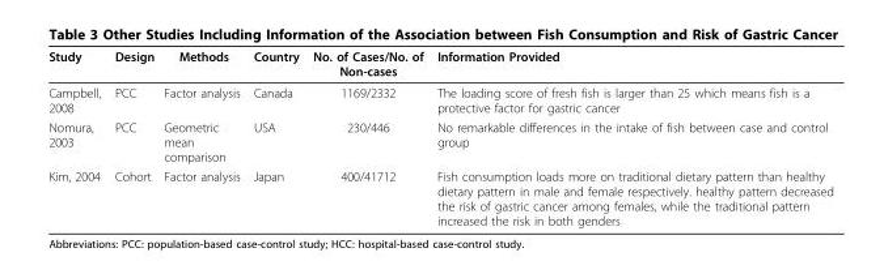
<table><thead><tr><td>Study</td><td>Design</td><td>Methods</td><td>Country</td><td>No. of Cases/No. of Non-cases</td><td>Information Provided</td></tr></thead><tbody><tr><td>Campbell, 2008</td><td>PCC</td><td>Factor analysis</td><td>Canada</td><td>1169/2332</td><td>The loading score of fresh fish is larger than 25 which means fish is a protective factor for gastric cancer</td></tr><tr><td>Nomura, 2003</td><td>PCC</td><td>Geometric mean comparison</td><td>USA</td><td>230/446</td><td>No remarkable differences in the intake of fish between case and control group</td></tr><tr><td>Kim, 2004</td><td>Cohort</td><td>Factor analysis</td><td>Japan</td><td>400/41712</td><td>Fish consumption loads more on traditional dietary pattern than healthy dietary pattern in male and female respectively. healthy pattern decreased the risk of gastric cancer among females, while the traditional pattern increased the risk in both genders</td></tr></tbody></table>